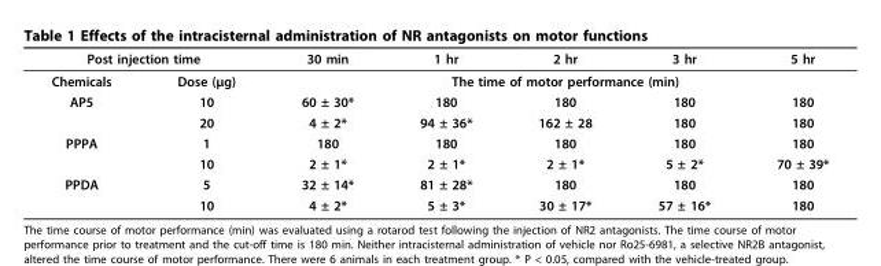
<table><thead><tr><td colspan="2">Post injection time</td><td>30 min</td><td>1 hr</td><td>2 hr</td><td>3 hr</td><td>5 hr</td></tr><tr><td>Chemicals</td><td>Dose (μg)</td><td colspan="5">The time of motor performance (min)</td></tr></thead><tbody><tr><td rowspan="2">AP5</td><td>10</td><td>60 ± 30*</td><td>180</td><td>180</td><td>180</td><td>180</td></tr><tr><td>20</td><td>4 ± 2*</td><td>94 ± 36*</td><td>162 ± 28</td><td>180</td><td>180</td></tr><tr><td rowspan="2">PPPA</td><td>1</td><td>180</td><td>180</td><td>180</td><td>180</td><td>180</td></tr><tr><td>10</td><td>2 ± 1*</td><td>2 ± 1*</td><td>2 ± 1*</td><td>5 ± 2*</td><td>70 ± 39*</td></tr><tr><td rowspan="2">PPDA</td><td>5</td><td>32 ± 14*</td><td>81 ± 28*</td><td>180</td><td>180</td><td>180</td></tr><tr><td>10</td><td>4 ± 2*</td><td>5 ± 3*</td><td>30 ± 17*</td><td>57 ± 16*</td><td>180</td></tr></tbody></table>